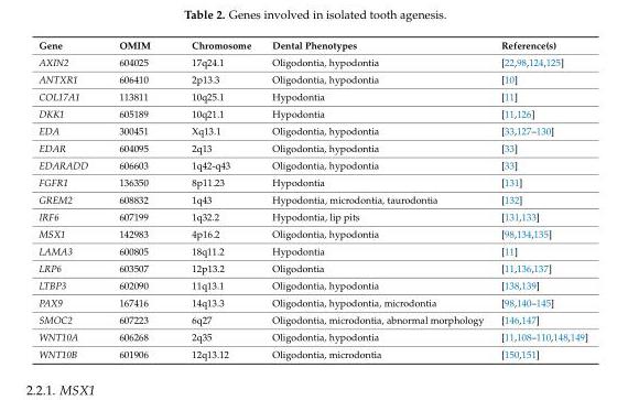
<table><thead><tr><td>Gene</td><td>OMIM</td><td>Chromosome</td><td>Dental Phenotypes</td><td>Reference(s)</td></tr></thead><tbody><tr><td>AXIN2</td><td>604025</td><td>17q24.1</td><td>Oligodontia, hypodontia</td><td>[22,98,124,125]</td></tr><tr><td>ANTXR1</td><td>606410</td><td>2p13.3</td><td>Oligodontia, hypodontia</td><td>[10]</td></tr><tr><td>COL17A1</td><td>113811</td><td>10q25.1</td><td>Hypodontia</td><td>[11]</td></tr><tr><td>DKK1</td><td>605189</td><td>10q21.1</td><td>Hypodontia</td><td>[11,126]</td></tr><tr><td>EDA</td><td>300451</td><td>Xq13.1</td><td>Oligodontia, hypodontia</td><td>[33,127–130]</td></tr><tr><td>EDAR</td><td>604095</td><td>2q13</td><td>Oligodontia, hypodontia</td><td>[33]</td></tr><tr><td>EDARADD</td><td>606603</td><td>1q42-q43</td><td>Oligodontia, hypodontia</td><td>[33]</td></tr><tr><td>FGFR1</td><td>136350</td><td>8p11.23</td><td>Hypodontia</td><td>[131]</td></tr><tr><td>GREM2</td><td>608832</td><td>1q43</td><td>Hypodontia, microdontia, taurodontia</td><td>[132]</td></tr><tr><td>IRF6</td><td>607199</td><td>1q32.2</td><td>Hypodontia, lip pits</td><td>[131,133]</td></tr><tr><td>MSX1</td><td>142983</td><td>4p16.2</td><td>Oligodontia, hypodontia</td><td>[98,134,135]</td></tr><tr><td>LAMA3</td><td>600805</td><td>18q11.2</td><td>Hypodontia</td><td>[11]</td></tr><tr><td>LRP6</td><td>603507</td><td>12p13.2</td><td>Oligodontia</td><td>[11,136,137]</td></tr><tr><td>LTBP3</td><td>602090</td><td>11q13.1</td><td>Oligodontia, hypodontia</td><td>[138,139]</td></tr><tr><td>PAX9</td><td>167416</td><td>14q13.3</td><td>Oligodontia, hypodontia, microdontia</td><td>[98,140–145]</td></tr><tr><td>SMOC2</td><td>607223</td><td>6q27</td><td>Oligodontia, microdontia, abnormal morphology</td><td>[146,147]</td></tr><tr><td>WNT10A</td><td>606268</td><td>2q35</td><td>Oligodontia, hypodontia</td><td>[11,108–110,148,149]</td></tr><tr><td>WNT10B</td><td>601906</td><td>12q13.12</td><td>Oligodontia, microdontia</td><td>[150,151]</td></tr></tbody></table>